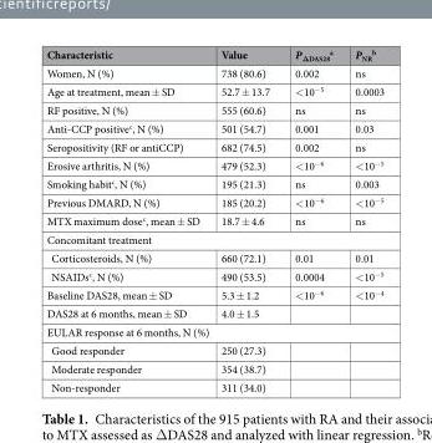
<table><thead><tr><td>Characteristic</td><td>Value</td><td>P<sub>ΔDAS28</sub> <sup>a</sup></td><td>P<sub>NR</sub> <sup>b</sup></td></tr></thead><tbody><tr><td>Women, N (%)</td><td>738 (80.6)</td><td>0.002</td><td>ns</td></tr><tr><td>Age at treatment, mean ± SD</td><td>52.7 ± 13.7</td><td>&lt;10<sup>−5</sup></td><td>0.0003</td></tr><tr><td>RF positive, N (%)</td><td>555 (60.6)</td><td>ns</td><td>ns</td></tr><tr><td>Anti-CCP positive<sup>c</sup>, N (%)</td><td>501 (54.7)</td><td>0.001</td><td>0.03</td></tr><tr><td>Seropositivity (RF or antiCCP)</td><td>682 (74.5)</td><td>0.002</td><td>ns</td></tr><tr><td>Erosive arthritis, N (%)</td><td>479 (52.3)</td><td>&lt;10<sup>−6</sup></td><td>&lt;10<sup>−5</sup></td></tr><tr><td>Smoking habit<sup>c</sup>, N (%)</td><td>195 (21.3)</td><td>ns</td><td>0.003</td></tr><tr><td>Previous DMARD, N (%)</td><td>185 (20.2)</td><td>&lt;10<sup>−6</sup></td><td>&lt;10<sup>−5</sup></td></tr><tr><td>MTX maximum dose<sup>c</sup>, mean ± SD</td><td>18.7 ± 4.6</td><td>ns</td><td>ns</td></tr><tr><td colspan="4">Concomitant treatment</td></tr><tr><td>Corticosteroids, N (%)</td><td>660 (72.1)</td><td>0.01</td><td>0.01</td></tr><tr><td>NSAIDs<sup>c</sup>, N (%)</td><td>490 (53.5)</td><td>0.0004</td><td>&lt;10<sup>−5</sup></td></tr><tr><td>Baseline DAS28, mean ± SD</td><td>5.3 ± 1.2</td><td>&lt;10<sup>−6</sup></td><td>&lt;10<sup>−4</sup></td></tr><tr><td>DAS28 at 6 months, mean ± SD</td><td>4.0 ± 1.5</td><td></td><td></td></tr><tr><td colspan="4">EULAR response at 6 months, N (%)</td></tr><tr><td>Good responder</td><td>250 (27.3)</td><td></td><td></td></tr><tr><td>Moderate responder</td><td>354 (38.7)</td><td></td><td></td></tr><tr><td>Non-responder</td><td>311 (34.0)</td><td></td><td></td></tr></tbody></table>